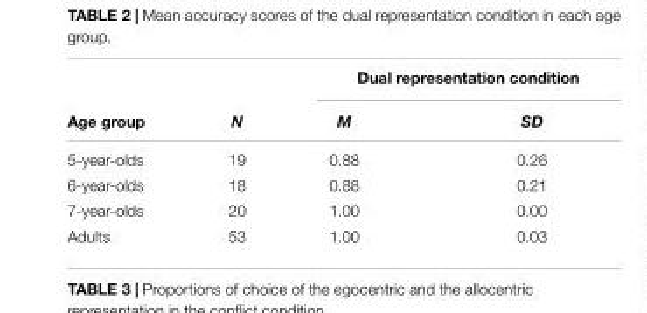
<table><thead><tr><td rowspan="2">Age group</td><td rowspan="2">N</td><td colspan="2">Dual representation condition</td></tr><tr><td>M</td><td>SD</td></tr></thead><tbody><tr><td>5-year-olds</td><td>19</td><td>0.88</td><td>0.26</td></tr><tr><td>6-year-olds</td><td>18</td><td>0.88</td><td>0.21</td></tr><tr><td>7-year-olds</td><td>20</td><td>1.00</td><td>0.00</td></tr><tr><td>Adults</td><td>53</td><td>1.00</td><td>0.03</td></tr></tbody></table>